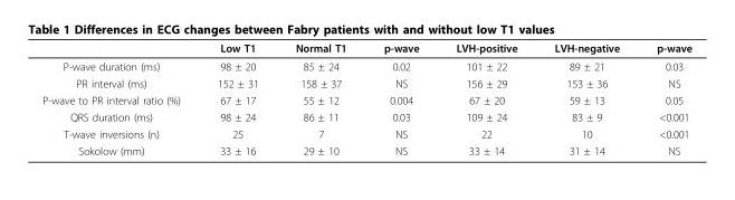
<table><thead><tr><td></td><td>Low T1</td><td>Normal T1</td><td>p-wave</td><td>LVH-positive</td><td>LVH-negative</td><td>p-wave</td></tr></thead><tbody><tr><td>P-wave duration (ms)</td><td>98 ± 20</td><td>85 ± 24</td><td>0.02</td><td>101 ± 22</td><td>89 ± 21</td><td>0.03</td></tr><tr><td>PR interval (ms)</td><td>152 ± 31</td><td>158 ± 37</td><td>NS</td><td>156 ± 29</td><td>153 ± 36</td><td>NS</td></tr><tr><td>P-wave to PR interval ratio (%)</td><td>67 ± 17</td><td>55 ± 12</td><td>0.004</td><td>67 ± 20</td><td>59 ± 13</td><td>0.05</td></tr><tr><td>QRS duration (ms)</td><td>98 ± 24</td><td>86 ± 11</td><td>0.03</td><td>109 ± 24</td><td>83 ± 9</td><td>&lt;0.001</td></tr><tr><td>T-wave inversions (n)</td><td>25</td><td>7</td><td>NS</td><td>22</td><td>10</td><td>&lt;0.001</td></tr><tr><td>Sokolow (mm)</td><td>33 ± 16</td><td>29 ± 10</td><td>NS</td><td>33 ± 14</td><td>31 ± 14</td><td>NS</td></tr></tbody></table>